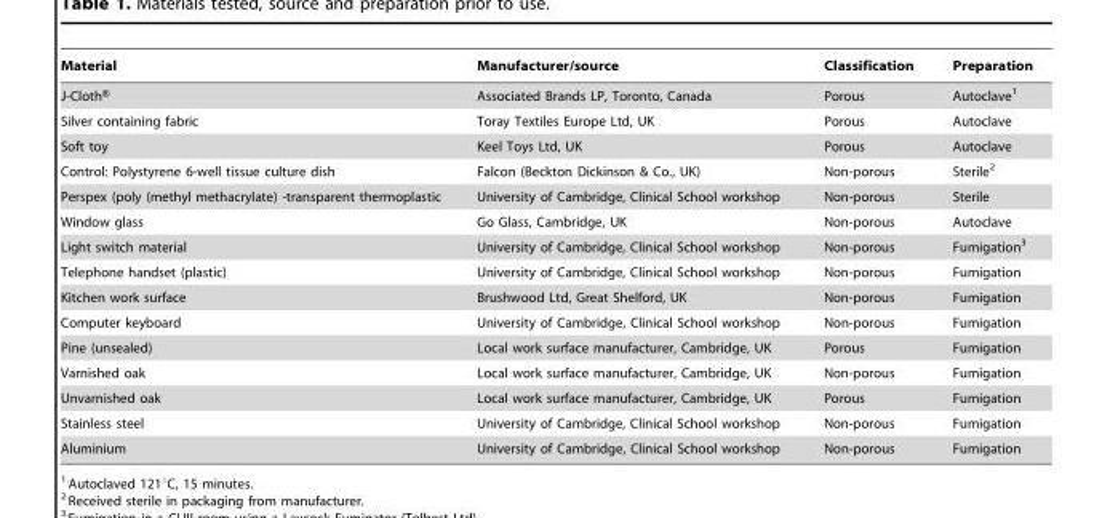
<table><thead><tr><td>Material</td><td>Manufacturer/source</td><td>Classification</td><td>Preparation</td></tr></thead><tbody><tr><td>J-Cloth®</td><td>Associated Brands LP, Toronto, Canada</td><td>Porous</td><td>Autoclave<sup>1</sup></td></tr><tr><td>Silver containing fabric</td><td>Toray Textiles Europe Ltd, UK</td><td>Porous</td><td>Autoclave</td></tr><tr><td>Soft toy</td><td>Keel Toys Ltd, UK</td><td>Porous</td><td>Autoclave</td></tr><tr><td>Control: Polystyrene 6-well tissue culture dish</td><td>Falcon (Beckton Dickinson &amp; Co., UK)</td><td>Non-porous</td><td>Sterile<sup>2</sup></td></tr><tr><td>Perspex (poly (methyl methacrylate) -transparent thermoplastic</td><td>University of Cambridge, Clinical School workshop</td><td>Non-porous</td><td>Sterile</td></tr><tr><td>Window glass</td><td>Go Glass, Cambridge, UK</td><td>Non-porous</td><td>Autoclave</td></tr><tr><td>Light switch material</td><td>University of Cambridge, Clinical School workshop</td><td>Non-porous</td><td>Fumigation<sup>3</sup></td></tr><tr><td>Telephone handset (plastic)</td><td>University of Cambridge, Clinical School workshop</td><td>Non-porous</td><td>Fumigation</td></tr><tr><td>Kitchen work surface</td><td>Brushwood Ltd, Great Shelford, UK</td><td>Non-porous</td><td>Fumigation</td></tr><tr><td>Computer keyboard</td><td>University of Cambridge, Clinical School workshop</td><td>Non-porous</td><td>Fumigation</td></tr><tr><td>Pine (unsealed)</td><td>Local work surface manufacturer, Cambridge, UK</td><td>Porous</td><td>Fumigation</td></tr><tr><td>Varnished oak</td><td>Local work surface manufacturer, Cambridge, UK</td><td>Non-porous</td><td>Fumigation</td></tr><tr><td>Unvarnished oak</td><td>Local work surface manufacturer, Cambridge, UK</td><td>Porous</td><td>Fumigation</td></tr><tr><td>Stainless steel</td><td>University of Cambridge, Clinical School workshop</td><td>Non-porous</td><td>Fumigation</td></tr><tr><td>Aluminium</td><td>University of Cambridge, Clinical School workshop</td><td>Non-porous</td><td>Fumigation</td></tr></tbody></table>